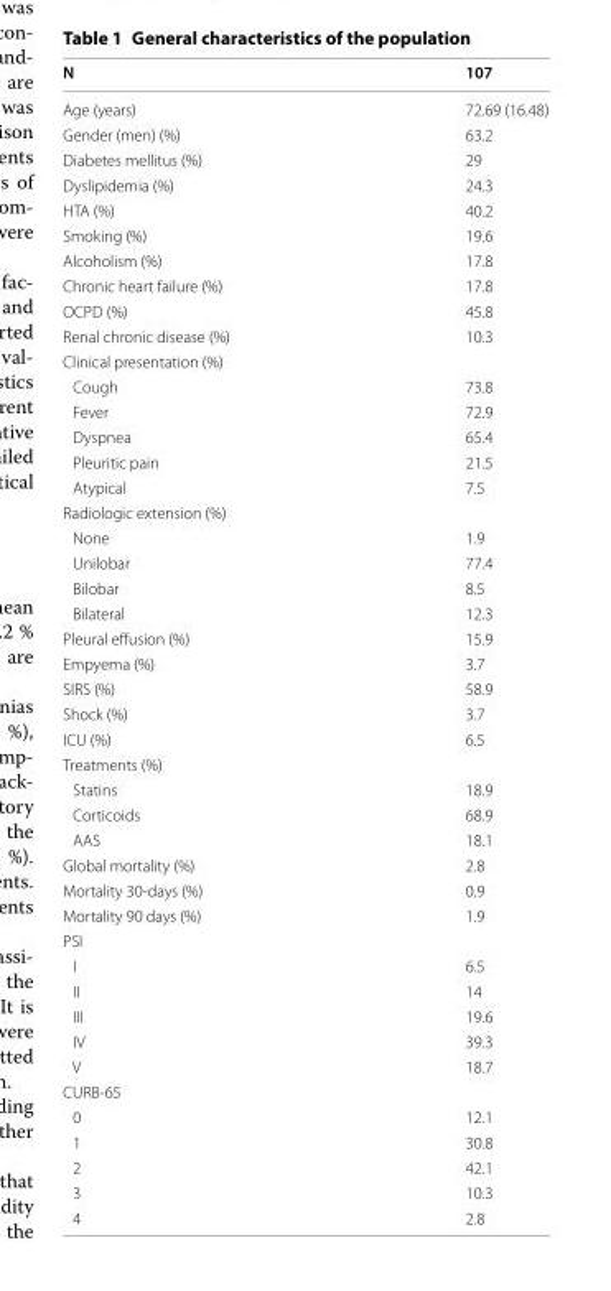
<table><thead><tr><td>N</td><td>107</td></tr></thead><tbody><tr><td>Age (years)</td><td>72.69 (16.48)</td></tr><tr><td>Gender (men) (%)</td><td>63.2</td></tr><tr><td>Diabetes mellitus (%)</td><td>29</td></tr><tr><td>Dyslipidemia (%)</td><td>24.3</td></tr><tr><td>HTA (%)</td><td>40.2</td></tr><tr><td>Smoking (%)</td><td>19.6</td></tr><tr><td>Alcoholism (%)</td><td>17.8</td></tr><tr><td>Chronic heart failure (%)</td><td>17.8</td></tr><tr><td>OCPD (%)</td><td>45.8</td></tr><tr><td>Renal chronic disease (%)</td><td>10.3</td></tr><tr><td colspan="2">Clinical presentation (%)</td></tr><tr><td>Cough</td><td>73.8</td></tr><tr><td>Fever</td><td>72.9</td></tr><tr><td>Dyspnea</td><td>65.4</td></tr><tr><td>Pleuritic pain</td><td>21.5</td></tr><tr><td>Atypical</td><td>7.5</td></tr><tr><td colspan="2">Radiologic extension (%)</td></tr><tr><td>None</td><td>1.9</td></tr><tr><td>Unilobar</td><td>77.4</td></tr><tr><td>Bilobar</td><td>8.5</td></tr><tr><td>Bilateral</td><td>12.3</td></tr><tr><td>Pleural effusion (%)</td><td>15.9</td></tr><tr><td>Empyema (%)</td><td>3.7</td></tr><tr><td>SIRS (%)</td><td>58.9</td></tr><tr><td>Shock (%)</td><td>3.7</td></tr><tr><td>ICU (%)</td><td>6.5</td></tr><tr><td colspan="2">Treatments (%)</td></tr><tr><td>Statins</td><td>18.9</td></tr><tr><td>Corticoids</td><td>68.9</td></tr><tr><td>AAS</td><td>18.1</td></tr><tr><td>Global mortality (%)</td><td>2.8</td></tr><tr><td>Mortality 30-days (%)</td><td>0.9</td></tr><tr><td>Mortality 90 days (%)</td><td>1.9</td></tr><tr><td colspan="2">PSI</td></tr><tr><td>I</td><td>6.5</td></tr><tr><td>II</td><td>14</td></tr><tr><td>III</td><td>19.6</td></tr><tr><td>IV</td><td>39.3</td></tr><tr><td>V</td><td>18.7</td></tr><tr><td colspan="2">CURB-65</td></tr><tr><td>0</td><td>12.1</td></tr><tr><td>1</td><td>30.8</td></tr><tr><td>2</td><td>42.1</td></tr><tr><td>3</td><td>10.3</td></tr><tr><td>4</td><td>2.8</td></tr></tbody></table>